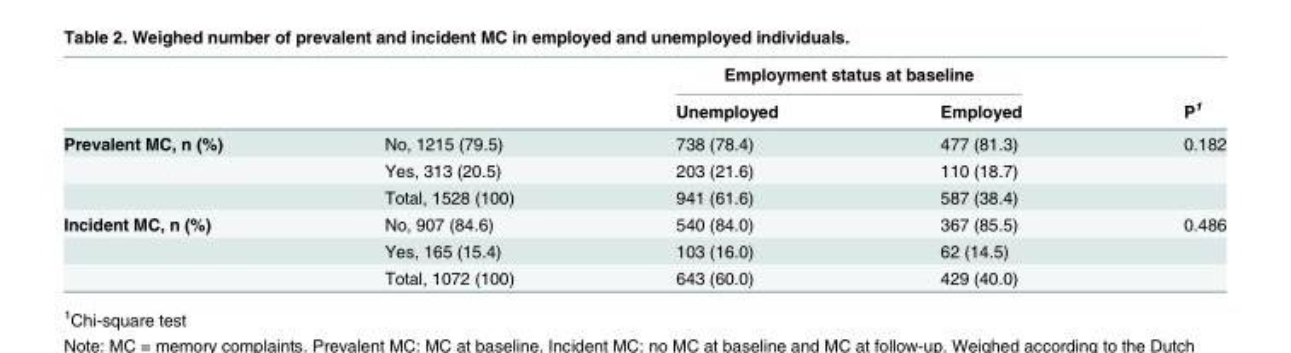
<table><thead><tr><td rowspan="2"></td><td rowspan="2"></td><td colspan="2">Employment status at baseline</td><td rowspan="2">P<sup>1</sup></td></tr><tr><td>Unemployed</td><td>Employed</td></tr></thead><tbody><tr><td rowspan="3">Prevalent MC, n (%)</td><td>No, 1215 (79.5)</td><td>738 (78.4)</td><td>477 (81.3)</td><td>0.182</td></tr><tr><td>Yes, 313 (20.5)</td><td>203 (21.6)</td><td>110 (18.7)</td><td></td></tr><tr><td>Total, 1528 (100)</td><td>941 (61.6)</td><td>587 (38.4)</td><td></td></tr><tr><td rowspan="3">Incident MC, n (%)</td><td>No, 907 (84.6)</td><td>540 (84.0)</td><td>367 (85.5)</td><td>0.486</td></tr><tr><td>Yes, 165 (15.4)</td><td>103 (16.0)</td><td>62 (14.5)</td><td></td></tr><tr><td>Total, 1072 (100)</td><td>643 (60.0)</td><td>429 (40.0)</td><td></td></tr></tbody></table>